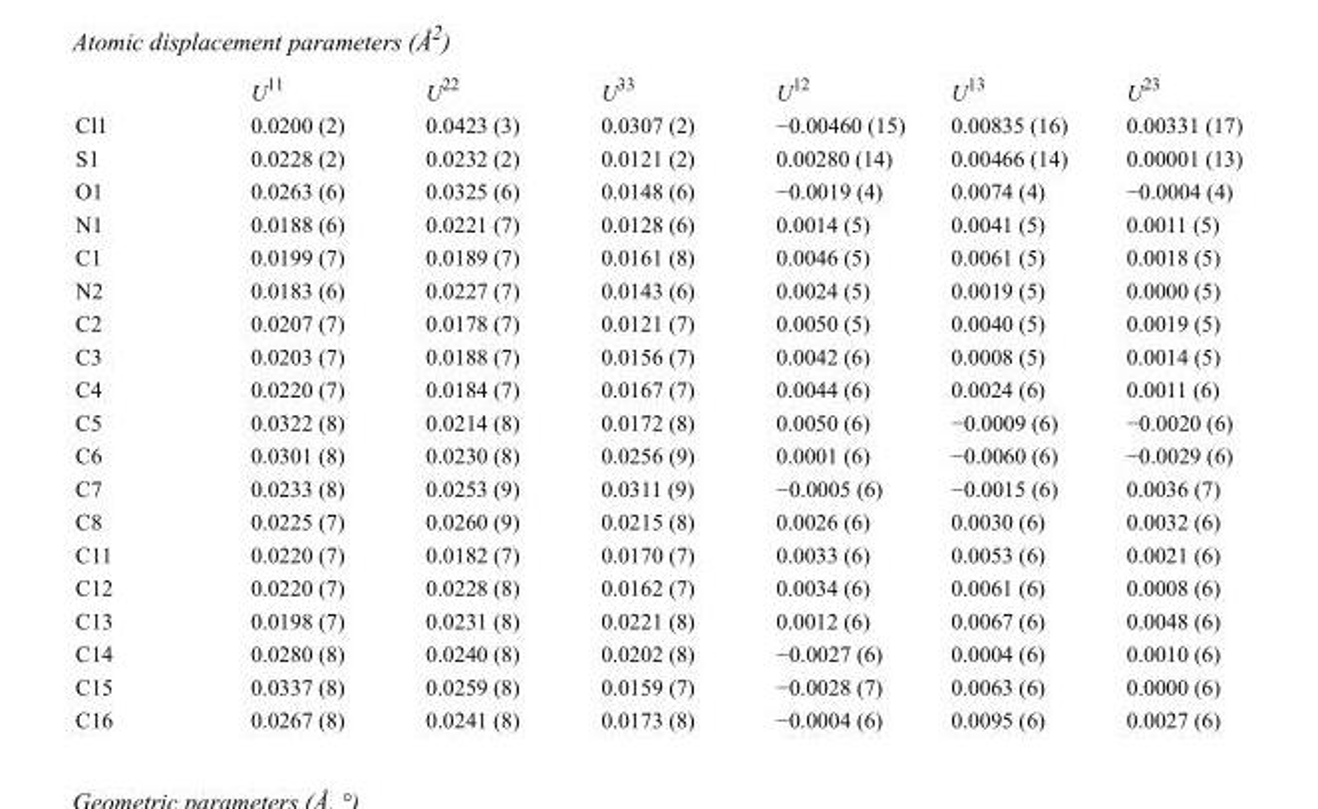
<table><thead><tr><td></td><td>U<sup>11</sup></td><td>U<sup>22</sup></td><td>U<sup>33</sup></td><td>U<sup>12</sup></td><td>U<sup>13</sup></td><td>U<sup>23</sup></td></tr></thead><tbody><tr><td>Cl1</td><td>0.0200 (2)</td><td>0.0423 (3)</td><td>0.0307 (2)</td><td>−0.00460 (15)</td><td>0.00835 (16)</td><td>0.00331 (17)</td></tr><tr><td>S1</td><td>0.0228 (2)</td><td>0.0232 (2)</td><td>0.0121 (2)</td><td>0.00280 (14)</td><td>0.00466 (14)</td><td>0.00001 (13)</td></tr><tr><td>O1</td><td>0.0263 (6)</td><td>0.0325 (6)</td><td>0.0148 (6)</td><td>−0.0019 (4)</td><td>0.0074 (4)</td><td>−0.0004 (4)</td></tr><tr><td>N1</td><td>0.0188 (6)</td><td>0.0221 (7)</td><td>0.0128 (6)</td><td>0.0014 (5)</td><td>0.0041 (5)</td><td>0.0011 (5)</td></tr><tr><td>C1</td><td>0.0199 (7)</td><td>0.0189 (7)</td><td>0.0161 (8)</td><td>0.0046 (5)</td><td>0.0061 (5)</td><td>0.0018 (5)</td></tr><tr><td>N2</td><td>0.0183 (6)</td><td>0.0227 (7)</td><td>0.0143 (6)</td><td>0.0024 (5)</td><td>0.0019 (5)</td><td>0.0000 (5)</td></tr><tr><td>C2</td><td>0.0207 (7)</td><td>0.0178 (7)</td><td>0.0121 (7)</td><td>0.0050 (5)</td><td>0.0040 (5)</td><td>0.0019 (5)</td></tr><tr><td>C3</td><td>0.0203 (7)</td><td>0.0188 (7)</td><td>0.0156 (7)</td><td>0.0042 (6)</td><td>0.0008 (5)</td><td>0.0014 (5)</td></tr><tr><td>C4</td><td>0.0220 (7)</td><td>0.0184 (7)</td><td>0.0167 (7)</td><td>0.0044 (6)</td><td>0.0024 (6)</td><td>0.0011 (6)</td></tr><tr><td>C5</td><td>0.0322 (8)</td><td>0.0214 (8)</td><td>0.0172 (8)</td><td>0.0050 (6)</td><td>−0.0009 (6)</td><td>−0.0020 (6)</td></tr><tr><td>C6</td><td>0.0301 (8)</td><td>0.0230 (8)</td><td>0.0256 (9)</td><td>0.0001 (6)</td><td>−0.0060 (6)</td><td>−0.0029 (6)</td></tr><tr><td>C7</td><td>0.0233 (8)</td><td>0.0253 (9)</td><td>0.0311 (9)</td><td>−0.0005 (6)</td><td>−0.0015 (6)</td><td>0.0036 (7)</td></tr><tr><td>C8</td><td>0.0225 (7)</td><td>0.0260 (9)</td><td>0.0215 (8)</td><td>0.0026 (6)</td><td>0.0030 (6)</td><td>0.0032 (6)</td></tr><tr><td>C11</td><td>0.0220 (7)</td><td>0.0182 (7)</td><td>0.0170 (7)</td><td>0.0033 (6)</td><td>0.0053 (6)</td><td>0.0021 (6)</td></tr><tr><td>C12</td><td>0.0220 (7)</td><td>0.0228 (8)</td><td>0.0162 (7)</td><td>0.0034 (6)</td><td>0.0061 (6)</td><td>0.0008 (6)</td></tr><tr><td>C13</td><td>0.0198 (7)</td><td>0.0231 (8)</td><td>0.0221 (8)</td><td>0.0012 (6)</td><td>0.0067 (6)</td><td>0.0048 (6)</td></tr><tr><td>C14</td><td>0.0280 (8)</td><td>0.0240 (8)</td><td>0.0202 (8)</td><td>−0.0027 (6)</td><td>0.0004 (6)</td><td>0.0010 (6)</td></tr><tr><td>C15</td><td>0.0337 (8)</td><td>0.0259 (8)</td><td>0.0159 (7)</td><td>−0.0028 (7)</td><td>0.0063 (6)</td><td>0.0000 (6)</td></tr><tr><td>C16</td><td>0.0267 (8)</td><td>0.0241 (8)</td><td>0.0173 (8)</td><td>−0.0004 (6)</td><td>0.0095 (6)</td><td>0.0027 (6)</td></tr></tbody></table>